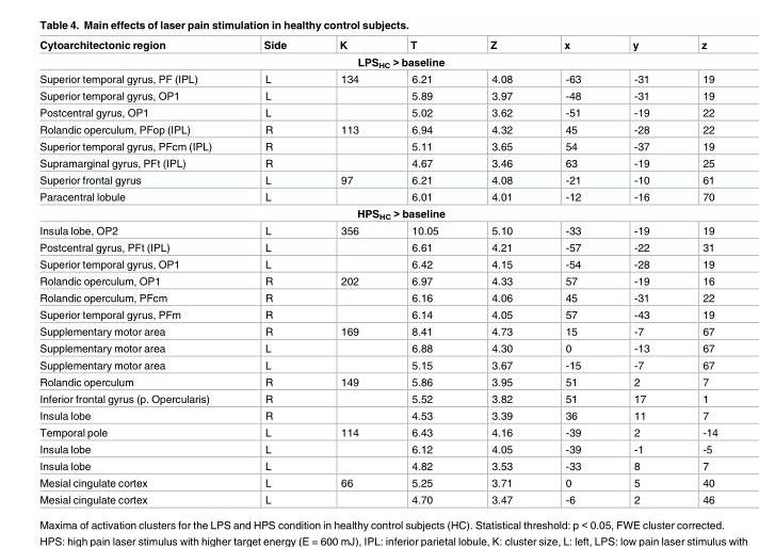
<table><thead><tr><td>Cytoarchitectonic region</td><td>Side</td><td>K</td><td>T</td><td>Z</td><td>x</td><td>y</td><td>z</td></tr></thead><tbody><tr><td colspan="8">LPS<sub>HC</sub> &gt; baseline</td></tr><tr><td>Superior temporal gyrus, PF (IPL)</td><td>L</td><td>134</td><td>6.21</td><td>4.08</td><td>-63</td><td>-31</td><td>19</td></tr><tr><td>Superior temporal gyrus, OP1</td><td>L</td><td></td><td>5.89</td><td>3.97</td><td>-48</td><td>-31</td><td>19</td></tr><tr><td>Postcentral gyrus, OP1</td><td>L</td><td></td><td>5.02</td><td>3.62</td><td>-51</td><td>-19</td><td>22</td></tr><tr><td>Rolandic operculum, PFop (IPL)</td><td>R</td><td>113</td><td>6.94</td><td>4.32</td><td>45</td><td>-28</td><td>22</td></tr><tr><td>Superior temporal gyrus, PFcm (IPL)</td><td>R</td><td></td><td>5.11</td><td>3.65</td><td>54</td><td>-37</td><td>19</td></tr><tr><td>Supramarginal gyrus, PFt (IPL)</td><td>R</td><td></td><td>4.67</td><td>3.46</td><td>63</td><td>-19</td><td>25</td></tr><tr><td>Superior frontal gyrus</td><td>L</td><td>97</td><td>6.21</td><td>4.08</td><td>-21</td><td>-10</td><td>61</td></tr><tr><td>Paracentral lobule</td><td>L</td><td></td><td>6.01</td><td>4.01</td><td>-12</td><td>-16</td><td>70</td></tr><tr><td colspan="8">HPS<sub>HC</sub> &gt; baseline</td></tr><tr><td>Insula lobe, OP2</td><td>L</td><td>356</td><td>10.05</td><td>5.10</td><td>-33</td><td>-19</td><td>19</td></tr><tr><td>Postcentral gyrus, PFt (IPL)</td><td>L</td><td></td><td>6.61</td><td>4.21</td><td>-57</td><td>-22</td><td>31</td></tr><tr><td>Superior temporal gyrus, OP1</td><td>L</td><td></td><td>6.42</td><td>4.15</td><td>-54</td><td>-28</td><td>19</td></tr><tr><td>Rolandic operculum, OP1</td><td>R</td><td>202</td><td>6.97</td><td>4.33</td><td>57</td><td>-19</td><td>16</td></tr><tr><td>Rolandic operculum, PFcm</td><td>R</td><td></td><td>6.16</td><td>4.06</td><td>45</td><td>-31</td><td>22</td></tr><tr><td>Superior temporal gyrus, PFm</td><td>R</td><td></td><td>6.14</td><td>4.05</td><td>57</td><td>-43</td><td>19</td></tr><tr><td>Supplementary motor area</td><td>R</td><td>169</td><td>8.41</td><td>4.73</td><td>15</td><td>-7</td><td>67</td></tr><tr><td>Supplementary motor area</td><td>L</td><td></td><td>6.88</td><td>4.30</td><td>0</td><td>-13</td><td>67</td></tr><tr><td>Supplementary motor area</td><td>L</td><td></td><td>5.15</td><td>3.67</td><td>-15</td><td>-7</td><td>67</td></tr><tr><td>Rolandic operculum</td><td>R</td><td>149</td><td>5.86</td><td>3.95</td><td>51</td><td>2</td><td>7</td></tr><tr><td>Inferior frontal gyrus (p. Opercularis)</td><td>R</td><td></td><td>5.52</td><td>3.82</td><td>51</td><td>17</td><td>1</td></tr><tr><td>Insula lobe</td><td>R</td><td></td><td>4.53</td><td>3.39</td><td>36</td><td>11</td><td>7</td></tr><tr><td>Temporal pole</td><td>L</td><td>114</td><td>6.43</td><td>4.16</td><td>-39</td><td>2</td><td>-14</td></tr><tr><td>Insula lobe</td><td>L</td><td></td><td>6.12</td><td>4.05</td><td>-39</td><td>-1</td><td>-5</td></tr><tr><td>Insula lobe</td><td>L</td><td></td><td>4.82</td><td>3.53</td><td>-33</td><td>8</td><td>7</td></tr><tr><td>Mesial cingulate cortex</td><td>L</td><td>66</td><td>5.25</td><td>3.71</td><td>0</td><td>5</td><td>40</td></tr><tr><td>Mesial cingulate cortex</td><td>L</td><td></td><td>4.70</td><td>3.47</td><td>-6</td><td>2</td><td>46</td></tr></tbody></table>